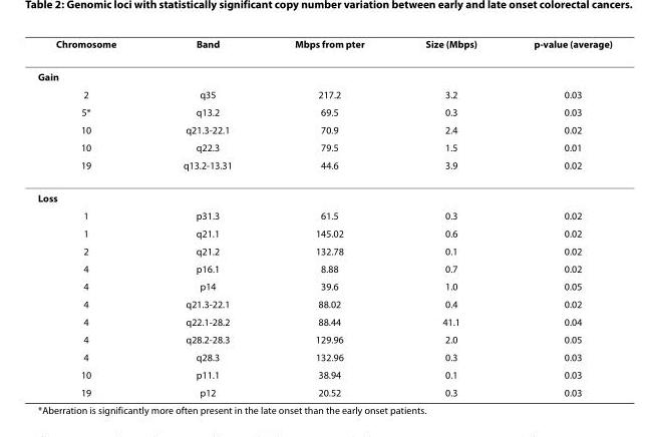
<table><thead><tr><td>Chromosome</td><td>Band</td><td>Mbps from pter</td><td>Size (Mbps)</td><td>p-value (average)</td></tr></thead><tbody><tr><td colspan="5">Gain</td></tr><tr><td>2</td><td>q35</td><td>217.2</td><td>3.2</td><td>0.03</td></tr><tr><td>5*</td><td>q13.2</td><td>69.5</td><td>0.3</td><td>0.03</td></tr><tr><td>10</td><td>q21.3-22.1</td><td>70.9</td><td>2.4</td><td>0.02</td></tr><tr><td>10</td><td>q22.3</td><td>79.5</td><td>1.5</td><td>0.01</td></tr><tr><td>19</td><td>q13.2-13.31</td><td>44.6</td><td>3.9</td><td>0.02</td></tr><tr><td colspan="5">Loss</td></tr><tr><td>1</td><td>p31.3</td><td>61.5</td><td>0.3</td><td>0.02</td></tr><tr><td>1</td><td>q21.1</td><td>145.02</td><td>0.6</td><td>0.02</td></tr><tr><td>2</td><td>q21.2</td><td>132.78</td><td>0.1</td><td>0.02</td></tr><tr><td>4</td><td>p16.1</td><td>8.88</td><td>0.7</td><td>0.02</td></tr><tr><td>4</td><td>p14</td><td>39.6</td><td>1.0</td><td>0.05</td></tr><tr><td>4</td><td>q21.3-22.1</td><td>88.02</td><td>0.4</td><td>0.02</td></tr><tr><td>4</td><td>q22.1-28.2</td><td>88.44</td><td>41.1</td><td>0.04</td></tr><tr><td>4</td><td>q28.2-28.3</td><td>129.96</td><td>2.0</td><td>0.05</td></tr><tr><td>4</td><td>q28.3</td><td>132.96</td><td>0.3</td><td>0.03</td></tr><tr><td>10</td><td>p11.1</td><td>38.94</td><td>0.1</td><td>0.03</td></tr><tr><td>19</td><td>p12</td><td>20.52</td><td>0.3</td><td>0.03</td></tr></tbody></table>